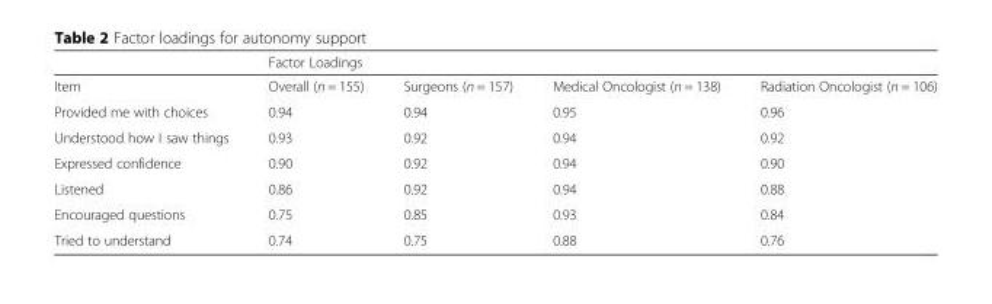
<table><thead><tr><td rowspan="2">Item</td><td colspan="4">Factor Loadings</td></tr><tr><td>Overall (n = 155)</td><td>Surgeons (n = 157)</td><td>Medical Oncologist (n = 138)</td><td>Radiation Oncologist (n = 106)</td></tr></thead><tbody><tr><td>Provided me with choices</td><td>0.94</td><td>0.94</td><td>0.95</td><td>0.96</td></tr><tr><td>Understood how I saw things</td><td>0.93</td><td>0.92</td><td>0.94</td><td>0.92</td></tr><tr><td>Expressed confidence</td><td>0.90</td><td>0.92</td><td>0.94</td><td>0.90</td></tr><tr><td>Listened</td><td>0.86</td><td>0.92</td><td>0.94</td><td>0.88</td></tr><tr><td>Encouraged questions</td><td>0.75</td><td>0.85</td><td>0.93</td><td>0.84</td></tr><tr><td>Tried to understand</td><td>0.74</td><td>0.75</td><td>0.88</td><td>0.76</td></tr></tbody></table>